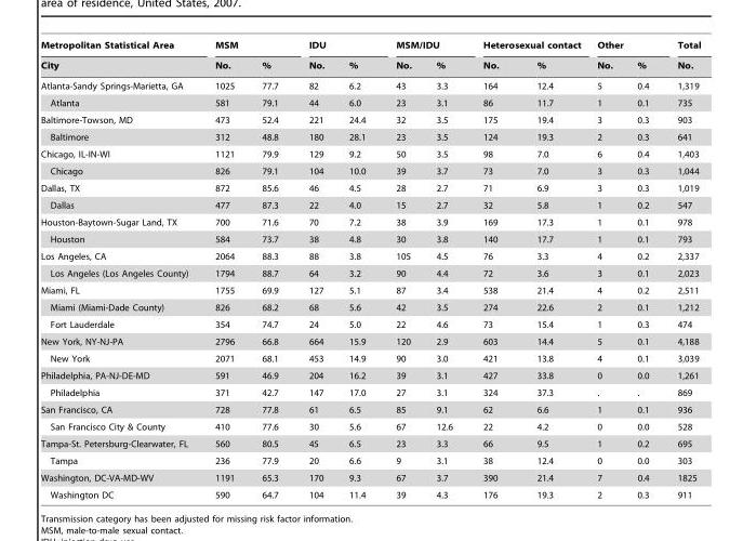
<table><thead><tr><td rowspan="2">Metropolitan Statistical Area City</td><td colspan="2">MSM</td><td colspan="2">IDU</td><td colspan="2">MSM/IDU</td><td colspan="2">Heterosexual contact</td><td colspan="2">Other</td><td rowspan="2">Total No.</td></tr><tr><td>No.</td><td>%</td><td>No.</td><td>%</td><td>No.</td><td>%</td><td>No.</td><td>%</td><td>No.</td><td>%</td></tr></thead><tbody><tr><td>Atlanta-Sandy Springs-Marietta, GA</td><td>1025</td><td>77.7</td><td>82</td><td>6.2</td><td>43</td><td>3.3</td><td>164</td><td>12.4</td><td>5</td><td>0.4</td><td>1,319</td></tr><tr><td>Atlanta</td><td>581</td><td>79.1</td><td>44</td><td>6.0</td><td>23</td><td>3.1</td><td>86</td><td>11.7</td><td>1</td><td>0.1</td><td>735</td></tr><tr><td>Baltimore-Towson, MD</td><td>473</td><td>52.4</td><td>221</td><td>24.4</td><td>32</td><td>3.5</td><td>175</td><td>19.4</td><td>3</td><td>0.3</td><td>903</td></tr><tr><td>Baltimore</td><td>312</td><td>48.8</td><td>180</td><td>28.1</td><td>23</td><td>3.5</td><td>124</td><td>19.3</td><td>2</td><td>0.3</td><td>641</td></tr><tr><td>Chicago, IL-IN-WI</td><td>1121</td><td>79.9</td><td>129</td><td>9.2</td><td>50</td><td>3.5</td><td>98</td><td>7.0</td><td>6</td><td>0.4</td><td>1,403</td></tr><tr><td>Chicago</td><td>826</td><td>79.1</td><td>104</td><td>10.0</td><td>39</td><td>3.7</td><td>73</td><td>7.0</td><td>3</td><td>0.3</td><td>1,044</td></tr><tr><td>Dallas, TX</td><td>872</td><td>85.6</td><td>46</td><td>4.5</td><td>28</td><td>2.7</td><td>71</td><td>6.9</td><td>3</td><td>0.3</td><td>1,019</td></tr><tr><td>Dallas</td><td>477</td><td>87.3</td><td>22</td><td>4.0</td><td>15</td><td>2.7</td><td>32</td><td>5.8</td><td>1</td><td>0.2</td><td>547</td></tr><tr><td>Houston-Baytown-Sugar Land, TX</td><td>700</td><td>71.6</td><td>70</td><td>7.2</td><td>38</td><td>3.9</td><td>169</td><td>17.3</td><td>1</td><td>0.1</td><td>978</td></tr><tr><td>Houston</td><td>584</td><td>73.7</td><td>38</td><td>4.8</td><td>30</td><td>3.8</td><td>140</td><td>17.7</td><td>1</td><td>0.1</td><td>793</td></tr><tr><td>Los Angeles, CA</td><td>2064</td><td>88.3</td><td>88</td><td>3.8</td><td>105</td><td>4.5</td><td>76</td><td>3.3</td><td>4</td><td>0.2</td><td>2,337</td></tr><tr><td>Los Angeles (Los Angeles County)</td><td>1794</td><td>88.7</td><td>64</td><td>3.2</td><td>90</td><td>4.4</td><td>72</td><td>3.6</td><td>3</td><td>0.1</td><td>2,023</td></tr><tr><td>Miami, FL</td><td>1755</td><td>69.9</td><td>127</td><td>5.1</td><td>87</td><td>3.4</td><td>538</td><td>21.4</td><td>4</td><td>0.2</td><td>2,511</td></tr><tr><td>Miami (Miami-Dade County)</td><td>826</td><td>68.2</td><td>68</td><td>5.6</td><td>42</td><td>3.5</td><td>274</td><td>22.6</td><td>2</td><td>0.1</td><td>1,212</td></tr><tr><td>Fort Lauderdale</td><td>354</td><td>74.7</td><td>24</td><td>5.0</td><td>22</td><td>4.6</td><td>73</td><td>15.4</td><td>1</td><td>0.3</td><td>474</td></tr><tr><td>New York, NY-NJ-PA</td><td>2796</td><td>66.8</td><td>664</td><td>15.9</td><td>120</td><td>2.9</td><td>603</td><td>14.4</td><td>5</td><td>0.1</td><td>4,188</td></tr><tr><td>New York</td><td>2071</td><td>68.1</td><td>453</td><td>14.9</td><td>90</td><td>3.0</td><td>421</td><td>13.8</td><td>4</td><td>0.1</td><td>3,039</td></tr><tr><td>Philadelphia, PA-NJ-DE-MD</td><td>591</td><td>46.9</td><td>204</td><td>16.2</td><td>39</td><td>3.1</td><td>427</td><td>33.8</td><td>0</td><td>0.0</td><td>1,261</td></tr><tr><td>Philadelphia</td><td>371</td><td>42.7</td><td>147</td><td>17.0</td><td>27</td><td>3.1</td><td>324</td><td>37.3</td><td>.</td><td>.</td><td>869</td></tr><tr><td>San Francisco, CA</td><td>728</td><td>77.8</td><td>61</td><td>6.5</td><td>85</td><td>9.1</td><td>62</td><td>6.6</td><td>1</td><td>0.1</td><td>936</td></tr><tr><td>San Francisco City &amp; County</td><td>410</td><td>77.6</td><td>30</td><td>5.6</td><td>67</td><td>12.6</td><td>22</td><td>4.2</td><td>0</td><td>0.0</td><td>528</td></tr><tr><td>Tampa-St. Petersburg-Clearwater, FL</td><td>560</td><td>80.5</td><td>45</td><td>6.5</td><td>23</td><td>3.3</td><td>66</td><td>9.5</td><td>1</td><td>0.2</td><td>695</td></tr><tr><td>Tampa</td><td>236</td><td>77.9</td><td>20</td><td>6.6</td><td>9</td><td>3.1</td><td>38</td><td>12.4</td><td>0</td><td>0.0</td><td>303</td></tr><tr><td>Washington, DC-VA-MD-WV</td><td>1191</td><td>65.3</td><td>170</td><td>9.3</td><td>67</td><td>3.7</td><td>390</td><td>21.4</td><td>7</td><td>0.4</td><td>1825</td></tr><tr><td>Washington DC</td><td>590</td><td>64.7</td><td>104</td><td>11.4</td><td>39</td><td>4.3</td><td>176</td><td>19.3</td><td>2</td><td>0.3</td><td>911</td></tr></tbody></table>